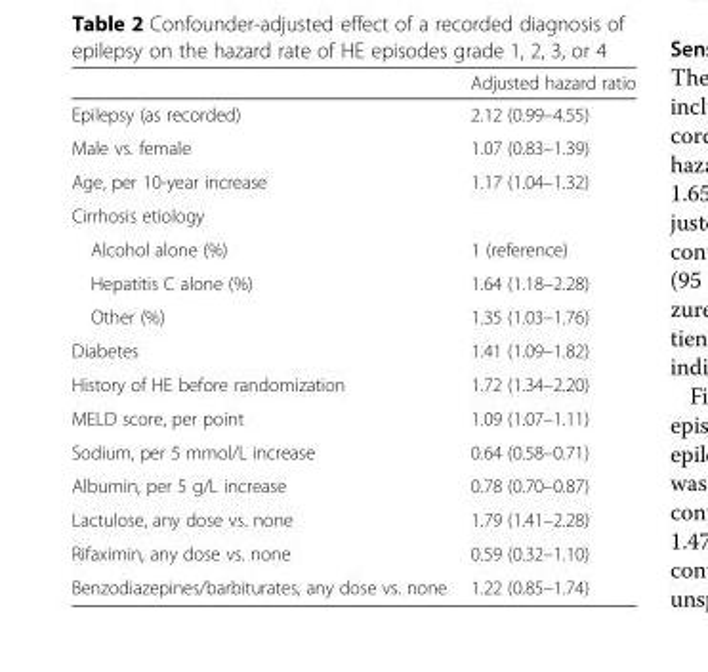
<table><thead><tr><td></td><td>Adjusted hazard ratio</td></tr></thead><tbody><tr><td>Epilepsy (as recorded)</td><td>2.12 (0.99–4.55)</td></tr><tr><td>Male vs. female</td><td>1.07 (0.83–1.39)</td></tr><tr><td>Age, per 10-year increase</td><td>1.17 (1.04–1.32)</td></tr><tr><td colspan="2">Cirrhosis etiology</td></tr><tr><td>Alcohol alone (%)</td><td>1 (reference)</td></tr><tr><td>Hepatitis C alone (%)</td><td>1.64 (1.18–2.28)</td></tr><tr><td>Other (%)</td><td>1.35 (1.03–1.76)</td></tr><tr><td>Diabetes</td><td>1.41 (1.09–1.82)</td></tr><tr><td>History of HE before randomization</td><td>1.72 (1.34–2.20)</td></tr><tr><td>MELD score, per point</td><td>1.09 (1.07–1.11)</td></tr><tr><td>Sodium, per 5 mmol/L increase</td><td>0.64 (0.58–0.71)</td></tr><tr><td>Albumin, per 5 g/L increase</td><td>0.78 (0.70–0.87)</td></tr><tr><td>Lactulose, any dose vs. none</td><td>1.79 (1.41–2.28)</td></tr><tr><td>Rifaximin, any dose vs. none</td><td>0.59 (0.32–1.10)</td></tr><tr><td>Benzodiazepines/barbiturates, any dose vs. none</td><td>1.22 (0.85–1.74)</td></tr></tbody></table>